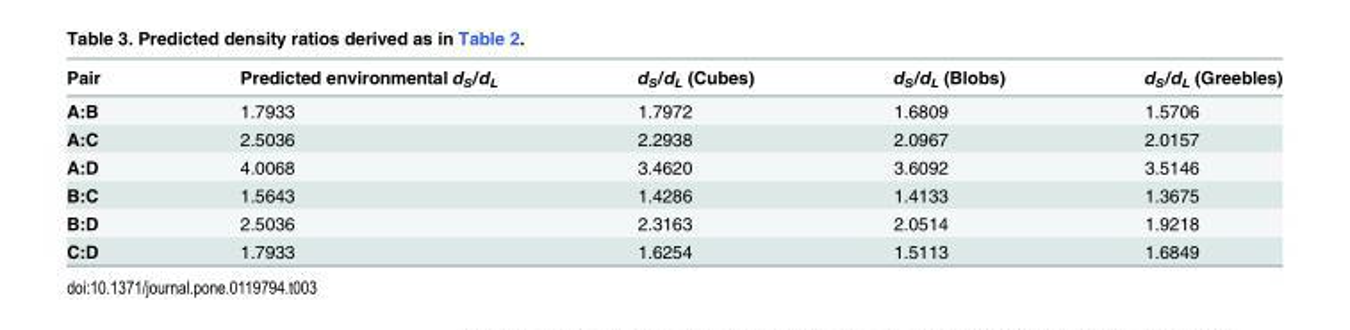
<table><thead><tr><td>Pair</td><td>Predicted environmental</td><td>dS/dL dS/dL (Cubes)</td><td>d<sub>S</sub>/d<sub>L</sub> (Blobs)</td><td>d<sub>S</sub>/d<sub>L</sub> (Greebles)</td></tr></thead><tbody><tr><td>A:B</td><td>1.7933</td><td>1.7972</td><td>1.6809</td><td>1.5706</td></tr><tr><td>A:C</td><td>2.5036</td><td>2.2938</td><td>2.0967</td><td>2.0157</td></tr><tr><td>A:D</td><td>4.0068</td><td>3.4620</td><td>3.6092</td><td>3.5146</td></tr><tr><td>B:C</td><td>1.5643</td><td>1.4286</td><td>1.4133</td><td>1.3675</td></tr><tr><td>B:D</td><td>2.5036</td><td>2.3163</td><td>2.0514</td><td>1.9218</td></tr><tr><td>C:D</td><td>1.7933</td><td>1.6254</td><td>1.5113</td><td>1.6849</td></tr></tbody></table>